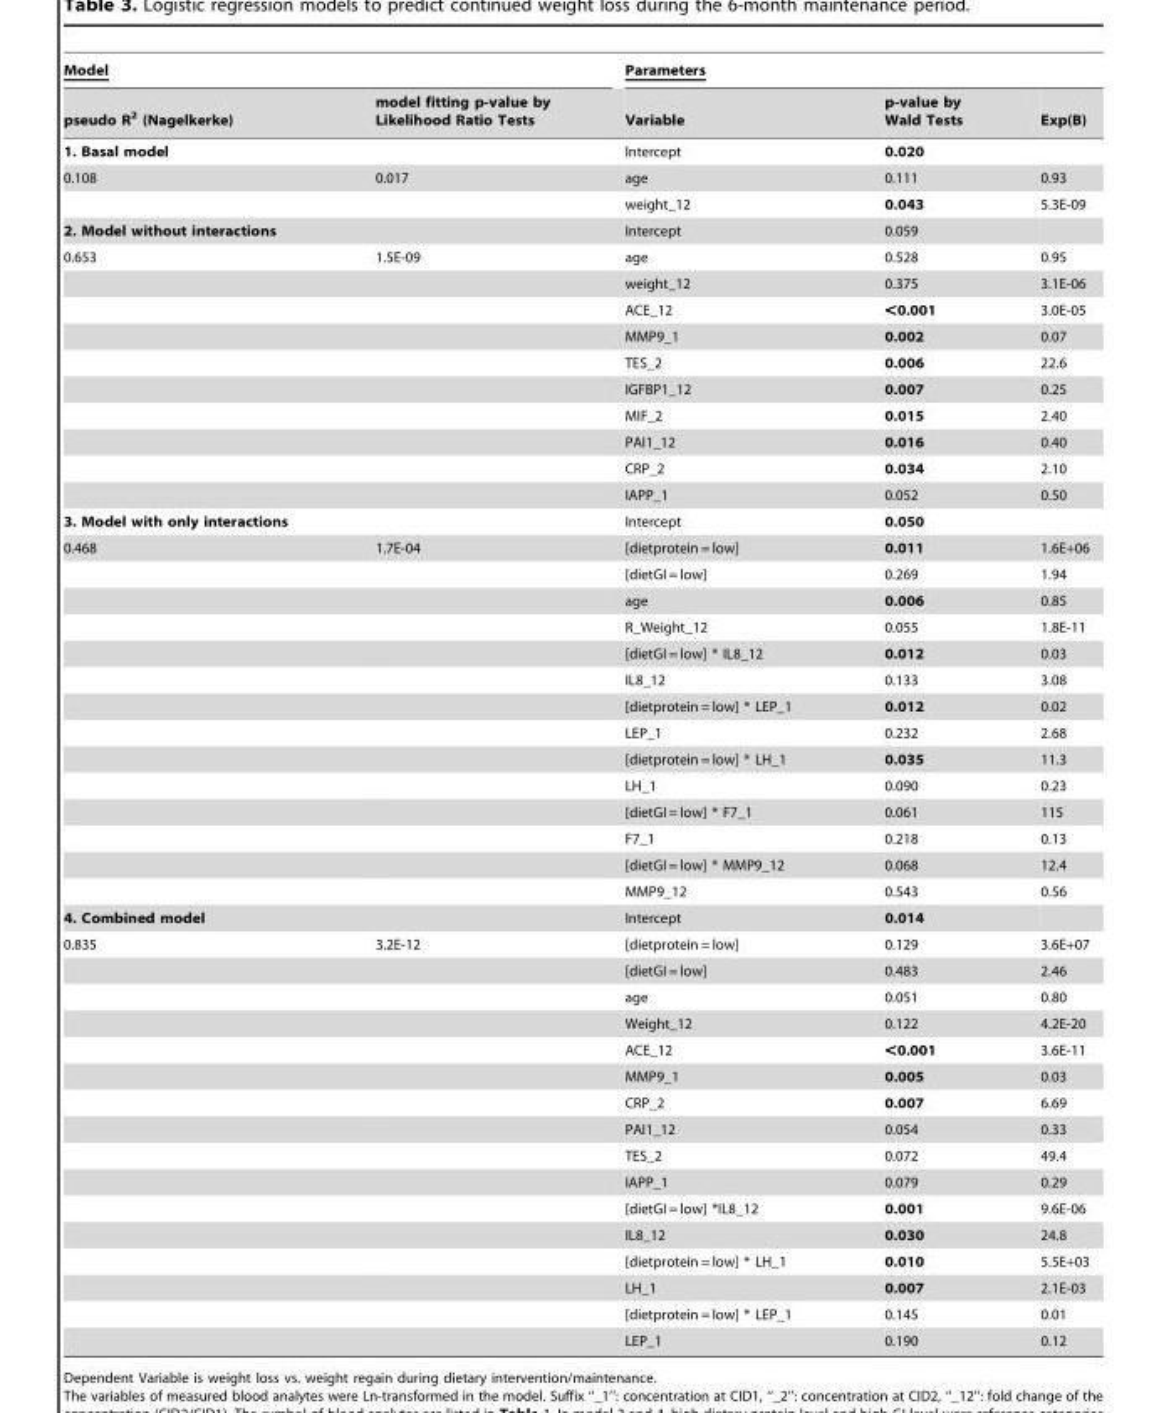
<table><thead><tr><td colspan="2">Model</td><td colspan="3">Parameters</td></tr><tr><td>pseudo R<sup>2</sup> (Nagelkerke)</td><td>model fitting p-value by Likelihood Ratio Tests</td><td>Variable</td><td>p-value by Wald Tests</td><td>Exp(B)</td></tr></thead><tbody><tr><td colspan="2">1. Basal model</td><td>Intercept</td><td>0.020</td><td></td></tr><tr><td rowspan="2">0.108</td><td>0.017</td><td>age</td><td>0.111</td><td>0.93</td></tr><tr><td></td><td>weight_12</td><td>0.043</td><td>5.3E-09</td></tr><tr><td colspan="2">2. Model without interactions</td><td>Intercept</td><td>0.059</td><td></td></tr><tr><td rowspan="10">0.653</td><td>1.5E-09</td><td>age</td><td>0.528</td><td>0.95</td></tr><tr><td></td><td>weight_12</td><td>0.375</td><td>3.1E-06</td></tr><tr><td></td><td>ACE_12</td><td>&lt;0.001</td><td>3.0E-05</td></tr><tr><td></td><td>MMP9_1</td><td>0.002</td><td>0.07</td></tr><tr><td></td><td>TES_2</td><td>0.006</td><td>22.6</td></tr><tr><td></td><td>IGFBP1_12</td><td>0.007</td><td>0.25</td></tr><tr><td></td><td>MIF_2</td><td>0.015</td><td>2.40</td></tr><tr><td></td><td>PAI1_12</td><td>0.016</td><td>0.40</td></tr><tr><td></td><td>CRP_2</td><td>0.034</td><td>2.10</td></tr><tr><td></td><td>IAPP_1</td><td>0.052</td><td>0.50</td></tr><tr><td colspan="2">3. Model with only interactions</td><td>Intercept</td><td>0.050</td><td></td></tr><tr><td rowspan="14">0.468</td><td>1.7E-04</td><td>[dietprotein = low]</td><td>0.011</td><td>1.6E+06</td></tr><tr><td></td><td>[dietGI = low]</td><td>0.269</td><td>1.94</td></tr><tr><td></td><td>age</td><td>0.006</td><td>0.85</td></tr><tr><td></td><td>R_Weight_12</td><td>0.055</td><td>1.8E-11</td></tr><tr><td></td><td>[dietGI = low] * IL8_12</td><td>0.012</td><td>0.03</td></tr><tr><td></td><td>IL8_12</td><td>0.133</td><td>3.08</td></tr><tr><td></td><td>[dietprotein = low] * LEP_1</td><td>0.012</td><td>0.02</td></tr><tr><td></td><td>LEP_1</td><td>0.232</td><td>2.68</td></tr><tr><td></td><td>[dietprotein = low] * LH_1</td><td>0.035</td><td>11.3</td></tr><tr><td></td><td>LH_1</td><td>0.090</td><td>0.23</td></tr><tr><td></td><td>[dietGI = low] * F7_1</td><td>0.061</td><td>115</td></tr><tr><td></td><td>F7_1</td><td>0.218</td><td>0.13</td></tr><tr><td></td><td>[dietGI = low] * MMP9_12</td><td>0.068</td><td>12.4</td></tr><tr><td></td><td>MMP9_12</td><td>0.543</td><td>0.56</td></tr><tr><td colspan="2">4. Combined model</td><td>Intercept</td><td>0.014</td><td></td></tr><tr><td rowspan="16">0.835</td><td>3.2E-12</td><td>[dietprotein = low]</td><td>0.129</td><td>3.6E+07</td></tr><tr><td></td><td>[dietGI = low]</td><td>0.483</td><td>2.46</td></tr><tr><td></td><td>age</td><td>0.051</td><td>0.80</td></tr><tr><td></td><td>Weight_12</td><td>0.122</td><td>4.2E-20</td></tr><tr><td></td><td>ACE_12</td><td>&lt;0.001</td><td>3.6E-11</td></tr><tr><td></td><td>MMP9_1</td><td>0.005</td><td>0.03</td></tr><tr><td></td><td>CRP_2</td><td>0.007</td><td>6.69</td></tr><tr><td></td><td>PAI1_12</td><td>0.054</td><td>0.33</td></tr><tr><td></td><td>TES_2</td><td>0.072</td><td>49.4</td></tr><tr><td></td><td>IAPP_1</td><td>0.079</td><td>0.29</td></tr><tr><td></td><td>[dietGI = low] *IL8_12</td><td>0.001</td><td>9.6E-06</td></tr><tr><td></td><td>IL8_12</td><td>0.030</td><td>24.8</td></tr><tr><td></td><td>[dietprotein = low] * LH_1</td><td>0.010</td><td>5.5E+03</td></tr><tr><td></td><td>LH_1</td><td>0.007</td><td>2.1E-03</td></tr><tr><td></td><td>[dietprotein = low] * LEP_1</td><td>0.145</td><td>0.01</td></tr><tr><td></td><td>LEP_1</td><td>0.190</td><td>0.12</td></tr></tbody></table>